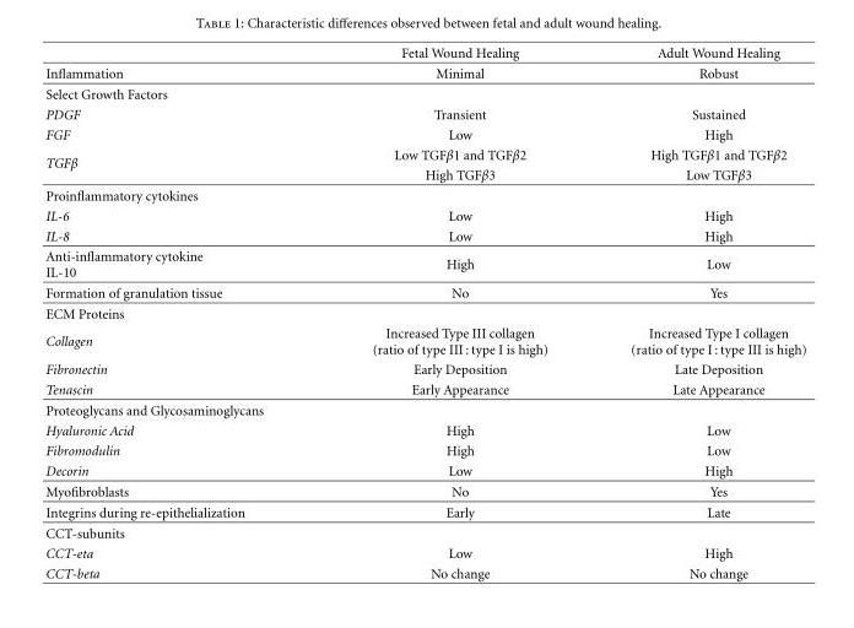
<table><thead><tr><td></td><td>Fetal Wound Healing</td><td>Adult Wound Healing</td></tr></thead><tbody><tr><td>Inflammation</td><td>Minimal</td><td>Robust</td></tr><tr><td colspan="3">Select Growth Factors</td></tr><tr><td>PDGF</td><td>Transient</td><td>Sustained</td></tr><tr><td>FGF</td><td>Low</td><td>High</td></tr><tr><td rowspan="2">TGFβ</td><td>Low TGFβ1 and TGFβ2</td><td>High TGFβ1 and TGFβ2</td></tr><tr><td>High TGFβ3</td><td>Low TGFβ3</td></tr><tr><td colspan="3">Proinflammatory cytokines</td></tr><tr><td>IL-6</td><td>Low</td><td>High</td></tr><tr><td>IL-8</td><td>Low</td><td>High</td></tr><tr><td>Anti-inflammatory cytokine IL-10</td><td>High</td><td>Low</td></tr><tr><td>Formation of granulation tissue</td><td>No</td><td>Yes</td></tr><tr><td colspan="3">ECM Proteins</td></tr><tr><td>Collagen</td><td>Increased Type III collagen (ratio of type III : type I is high)</td><td>Increased Type I collagen (ratio of type I : type III is high)</td></tr><tr><td>Fibronectin</td><td>Early Deposition</td><td>Late Deposition</td></tr><tr><td>Tenascin</td><td>Early Appearance</td><td>Late Appearance</td></tr><tr><td colspan="3">Proteoglycans and Glycosaminoglycans</td></tr><tr><td>Hyaluronic Acid</td><td>High</td><td>Low</td></tr><tr><td>Fibromodulin</td><td>High</td><td>Low</td></tr><tr><td>Decorin</td><td>Low</td><td>High</td></tr><tr><td>Myofibroblasts</td><td>No</td><td>Yes</td></tr><tr><td>Integrins during re-epithelialization</td><td>Early</td><td>Late</td></tr><tr><td colspan="3">CCT-subunits</td></tr><tr><td>CCT-eta</td><td>Low</td><td>High</td></tr><tr><td>CCT-beta</td><td>No change</td><td>No change</td></tr></tbody></table>